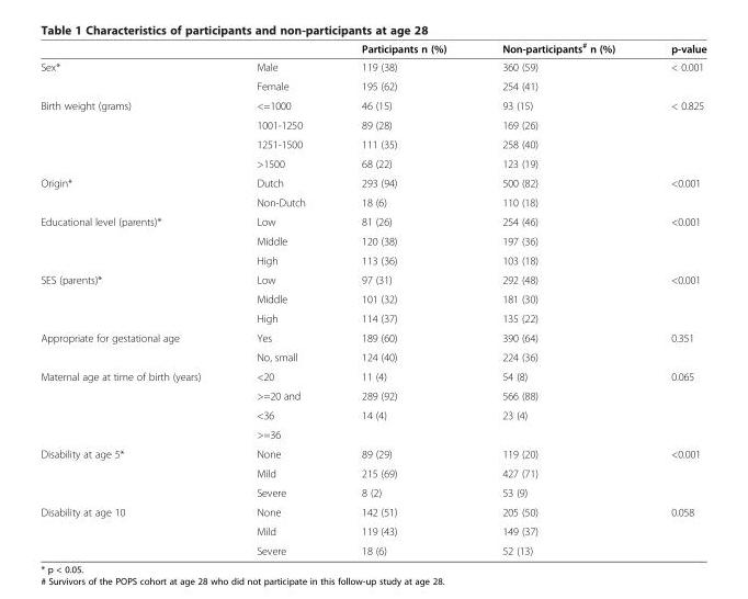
<table><thead><tr><td></td><td></td><td>Participants n (%)</td><td>Non-participants<sup>#</sup> n (%)</td><td>p-value</td></tr></thead><tbody><tr><td rowspan="2">Sex*</td><td>Male</td><td>119 (38)</td><td>360 (59)</td><td rowspan="2">&lt; 0.001</td></tr><tr><td>Female</td><td>195 (62)</td><td>254 (41)</td></tr><tr><td rowspan="4">Birth weight (grams)</td><td>&lt;=1000</td><td>46 (15)</td><td>93 (15)</td><td rowspan="4">&lt; 0.825</td></tr><tr><td>1001-1250</td><td>89 (28)</td><td>169 (26)</td></tr><tr><td>1251-1500</td><td>111 (35)</td><td>258 (40)</td></tr><tr><td>&gt;1500</td><td>68 (22)</td><td>123 (19)</td></tr><tr><td rowspan="2">Origin*</td><td>Dutch</td><td>293 (94)</td><td>500 (82)</td><td rowspan="2">&lt;0.001</td></tr><tr><td>Non-Dutch</td><td>18 (6)</td><td>110 (18)</td></tr><tr><td rowspan="3">Educational level (parents)*</td><td>Low</td><td>81 (26)</td><td>254 (46)</td><td rowspan="3">&lt;0.001</td></tr><tr><td>Middle</td><td>120 (38)</td><td>197 (36)</td></tr><tr><td>High</td><td>113 (36)</td><td>103 (18)</td></tr><tr><td rowspan="3">SES (parents)*</td><td>Low</td><td>97 (31)</td><td>292 (48)</td><td rowspan="3">&lt;0.001</td></tr><tr><td>Middle</td><td>101 (32)</td><td>181 (30)</td></tr><tr><td>High</td><td>114 (37)</td><td>135 (22)</td></tr><tr><td rowspan="2">Appropriate for gestational age</td><td>Yes</td><td>189 (60)</td><td>390 (64)</td><td rowspan="2">0.351</td></tr><tr><td>No, small</td><td>124 (40)</td><td>224 (36)</td></tr><tr><td rowspan="4">Maternal age at time of birth (years)</td><td>&lt;20</td><td>11 (4)</td><td>54 (8)</td><td rowspan="4">0.065</td></tr><tr><td>&gt;=20 and</td><td>289 (92)</td><td>566 (88)</td></tr><tr><td>&lt;36</td><td>14 (4)</td><td>23 (4)</td></tr><tr><td>&gt;=36</td><td></td><td></td></tr><tr><td rowspan="3">Disability at age 5*</td><td>None</td><td>89 (29)</td><td>119 (20)</td><td rowspan="3">&lt;0.001</td></tr><tr><td>Mild</td><td>215 (69)</td><td>427 (71)</td></tr><tr><td>Severe</td><td>8 (2)</td><td>53 (9)</td></tr><tr><td rowspan="3">Disability at age 10</td><td>None</td><td>142 (51)</td><td>205 (50)</td><td>0.058</td></tr><tr><td>Mild</td><td>119 (43)</td><td>149 (37)</td><td></td></tr><tr><td>Severe</td><td>18 (6)</td><td>52 (13)</td><td></td></tr></tbody></table>